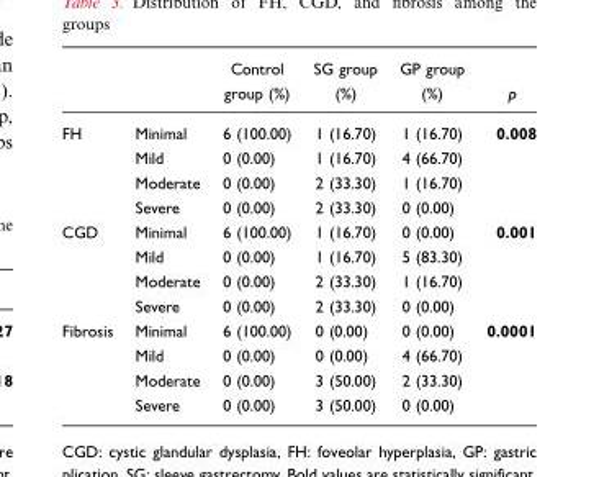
<table><thead><tr><td></td><td></td><td>Control group (%)</td><td>SG group (%)</td><td>GP group (%)</td><td>p</td></tr></thead><tbody><tr><td rowspan="4">FH</td><td>Minimal</td><td>6 (100.00)</td><td>1 (16.70)</td><td>1 (16.70)</td><td>0.008</td></tr><tr><td>Mild</td><td>0 (0.00)</td><td>1 (16.70)</td><td>4 (66.70)</td><td></td></tr><tr><td>Moderate</td><td>0 (0.00)</td><td>2 (33.30)</td><td>1 (16.70)</td><td></td></tr><tr><td>Severe</td><td>0 (0.00)</td><td>2 (33.30)</td><td>0 (0.00)</td><td></td></tr><tr><td rowspan="4">CGD</td><td>Minimal</td><td>6 (100.00)</td><td>1 (16.70)</td><td>0 (0.00)</td><td>0.001</td></tr><tr><td>Mild</td><td>0 (0.00)</td><td>1 (16.70)</td><td>5 (83.30)</td><td></td></tr><tr><td>Moderate</td><td>0 (0.00)</td><td>2 (33.30)</td><td>1 (16.70)</td><td></td></tr><tr><td>Severe</td><td>0 (0.00)</td><td>2 (33.30)</td><td>0 (0.00)</td><td></td></tr><tr><td rowspan="4">Fibrosis</td><td>Minimal</td><td>6 (100.00)</td><td>0 (0.00)</td><td>0 (0.00)</td><td>0.0001</td></tr><tr><td>Mild</td><td>0 (0.00)</td><td>0 (0.00)</td><td>4 (66.70)</td><td></td></tr><tr><td>Moderate</td><td>0 (0.00)</td><td>3 (50.00)</td><td>2 (33.30)</td><td></td></tr><tr><td>Severe</td><td>0 (0.00)</td><td>3 (50.00)</td><td>0 (0.00)</td><td></td></tr></tbody></table>